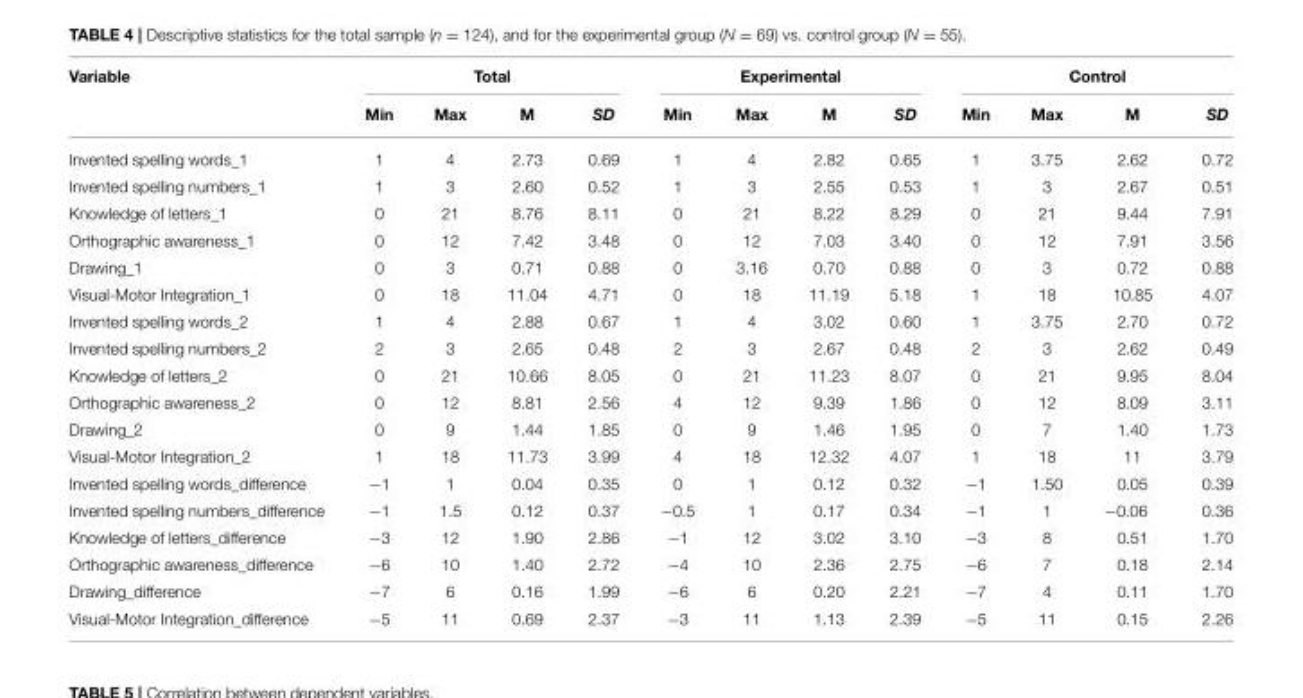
<table><thead><tr><td rowspan="2">Variable</td><td colspan="4">Total</td><td colspan="4">Experimental</td><td colspan="4">Control</td></tr><tr><td>Min</td><td>Max</td><td>M</td><td>SD</td><td>Min</td><td>Max</td><td>M</td><td>SD</td><td>Min</td><td>Max</td><td>M</td><td>SD</td></tr></thead><tbody><tr><td>Invented spelling words_1</td><td>1</td><td>4</td><td>2.73</td><td>0.69</td><td>1</td><td>4</td><td>2.82</td><td>0.65</td><td>1</td><td>3.75</td><td>2.62</td><td>0.72</td></tr><tr><td>Invented spelling numbers_1</td><td>1</td><td>3</td><td>2.60</td><td>0.52</td><td>1</td><td>3</td><td>2.55</td><td>0.53</td><td>1</td><td>3</td><td>2.67</td><td>0.51</td></tr><tr><td>Knowledge of letters_1</td><td>0</td><td>21</td><td>8.76</td><td>8.11</td><td>0</td><td>21</td><td>8.22</td><td>8.29</td><td>0</td><td>21</td><td>9.44</td><td>7.91</td></tr><tr><td>Orthographic awareness_1</td><td>0</td><td>12</td><td>7.42</td><td>3.48</td><td>0</td><td>12</td><td>7.03</td><td>3.40</td><td>0</td><td>12</td><td>7.91</td><td>3.56</td></tr><tr><td>Drawing_1</td><td>0</td><td>3</td><td>0.71</td><td>0.88</td><td>0</td><td>3.16</td><td>0.70</td><td>0.88</td><td>0</td><td>3</td><td>0.72</td><td>0.88</td></tr><tr><td>Visual-Motor Integration_1</td><td>0</td><td>18</td><td>11.04</td><td>4.71</td><td>0</td><td>18</td><td>11.19</td><td>5.18</td><td>1</td><td>18</td><td>10.85</td><td>4.07</td></tr><tr><td>Invented spelling words_2</td><td>1</td><td>4</td><td>2.88</td><td>0.67</td><td>1</td><td>4</td><td>3.02</td><td>0.60</td><td>1</td><td>3.75</td><td>2.70</td><td>0.72</td></tr><tr><td>Invented spelling numbers_2</td><td>2</td><td>3</td><td>2.65</td><td>0.48</td><td>2</td><td>3</td><td>2.67</td><td>0.48</td><td>2</td><td>3</td><td>2.62</td><td>0.49</td></tr><tr><td>Knowledge of letters_2</td><td>0</td><td>21</td><td>10.66</td><td>8.05</td><td>0</td><td>21</td><td>11.23</td><td>8.07</td><td>0</td><td>21</td><td>9.95</td><td>8.04</td></tr><tr><td>Orthographic awareness_2</td><td>0</td><td>12</td><td>8.81</td><td>2.56</td><td>4</td><td>12</td><td>9.39</td><td>1.86</td><td>0</td><td>12</td><td>8.09</td><td>3.11</td></tr><tr><td>Drawing_2</td><td>0</td><td>9</td><td>1.44</td><td>1.85</td><td>0</td><td>9</td><td>1.46</td><td>1.95</td><td>0</td><td>7</td><td>1.40</td><td>1.73</td></tr><tr><td>Visual-Motor Integration_2</td><td>1</td><td>18</td><td>11.73</td><td>3.99</td><td>4</td><td>18</td><td>12.32</td><td>4.07</td><td>1</td><td>18</td><td>11</td><td>3.79</td></tr><tr><td>Invented spelling words_difference</td><td>−1</td><td>1</td><td>0.04</td><td>0.35</td><td>0</td><td>1</td><td>0.12</td><td>0.32</td><td>−1</td><td>1.50</td><td>0.05</td><td>0.39</td></tr><tr><td>Invented spelling numbers_difference</td><td>−1</td><td>1.5</td><td>0.12</td><td>0.37</td><td>−0.5</td><td>1</td><td>0.17</td><td>0.34</td><td>−1</td><td>1</td><td>−0.06</td><td>0.36</td></tr><tr><td>Knowledge of letters_difference</td><td>−3</td><td>12</td><td>1.90</td><td>2.86</td><td>−1</td><td>12</td><td>3.02</td><td>3.10</td><td>−3</td><td>8</td><td>0.51</td><td>1.70</td></tr><tr><td>Orthographic awareness_difference</td><td>−6</td><td>10</td><td>1.40</td><td>2.72</td><td>−4</td><td>10</td><td>2.36</td><td>2.75</td><td>−6</td><td>7</td><td>0.18</td><td>2.14</td></tr><tr><td>Drawing_difference</td><td>−7</td><td>6</td><td>0.16</td><td>1.99</td><td>−6</td><td>6</td><td>0.20</td><td>2.21</td><td>−7</td><td>4</td><td>0.11</td><td>1.70</td></tr><tr><td>Visual-Motor Integration_difference</td><td>−5</td><td>11</td><td>0.69</td><td>2.37</td><td>−3</td><td>11</td><td>1.13</td><td>2.39</td><td>−5</td><td>11</td><td>0.15</td><td>2.26</td></tr></tbody></table>